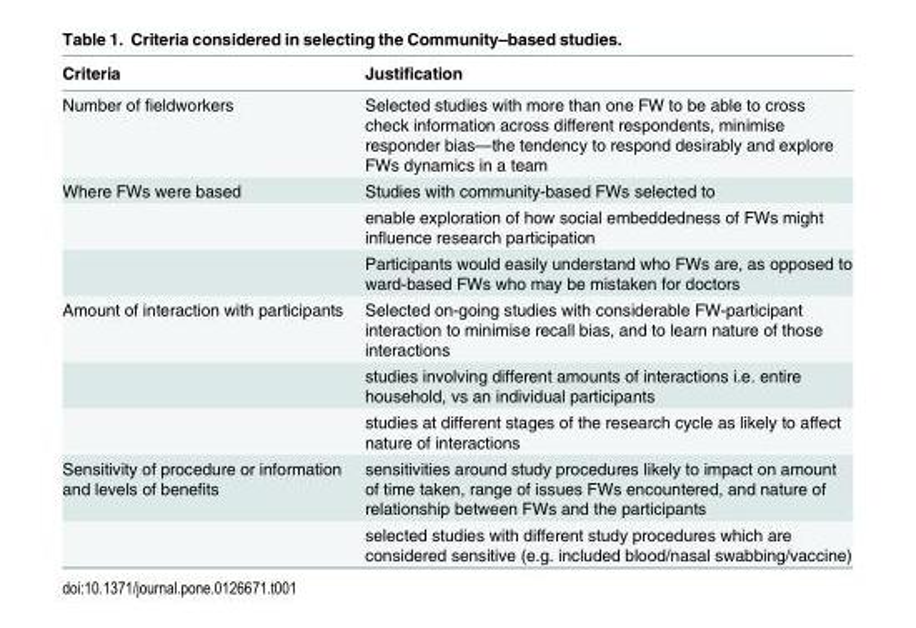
<table><thead><tr><td>Criteria</td><td>Justification</td></tr></thead><tbody><tr><td>Number of fieldworkers</td><td>Selected studies with more than one FW to be able to cross check information across different respondents, minimise responder bias—the tendency to respond desirably and explore FWs dynamics in a team</td></tr><tr><td rowspan="3">Where FWs were based</td><td>Studies with community-based FWs selected to</td></tr><tr><td>enable exploration of how social embeddedness of FWs might influence research participation</td></tr><tr><td>Participants would easily understand who FWs are, as opposed to ward-based FWs who may be mistaken for doctors</td></tr><tr><td rowspan="3">Amount of interaction with participants</td><td>Selected on-going studies with considerable FW-participant interaction to minimise recall bias, and to learn nature of those interactions</td></tr><tr><td>studies involving different amounts of interactions i.e. entire household, vs an individual participants</td></tr><tr><td>studies at different stages of the research cycle as likely to affect nature of interactions</td></tr><tr><td rowspan="2">Sensitivity of procedure or information and levels of benefits</td><td>sensitivities around study procedures likely to impact on amount of time taken, range of issues FWs encountered, and nature of relationship between FWs and the participants</td></tr><tr><td>selected studies with different study procedures which are considered sensitive (e.g. included blood/nasal swabbing/vaccine)</td></tr></tbody></table>